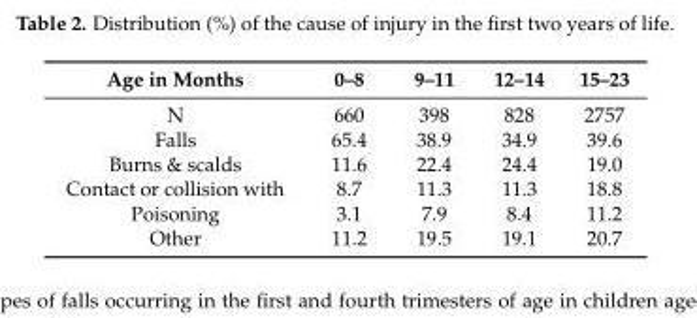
<table><thead><tr><td>Age in Months</td><td>0–8</td><td>9–11</td><td>12–14</td><td>15–23</td></tr></thead><tbody><tr><td>N</td><td>660</td><td>398</td><td>828</td><td>2757</td></tr><tr><td>Falls</td><td>65.4</td><td>38.9</td><td>34.9</td><td>39.6</td></tr><tr><td>Burns &amp; scalds</td><td>11.6</td><td>22.4</td><td>24.4</td><td>19.0</td></tr><tr><td>Contact or collision with</td><td>8.7</td><td>11.3</td><td>11.3</td><td>18.8</td></tr><tr><td>Poisoning</td><td>3.1</td><td>7.9</td><td>8.4</td><td>11.2</td></tr><tr><td>Other</td><td>11.2</td><td>19.5</td><td>19.1</td><td>20.7</td></tr></tbody></table>